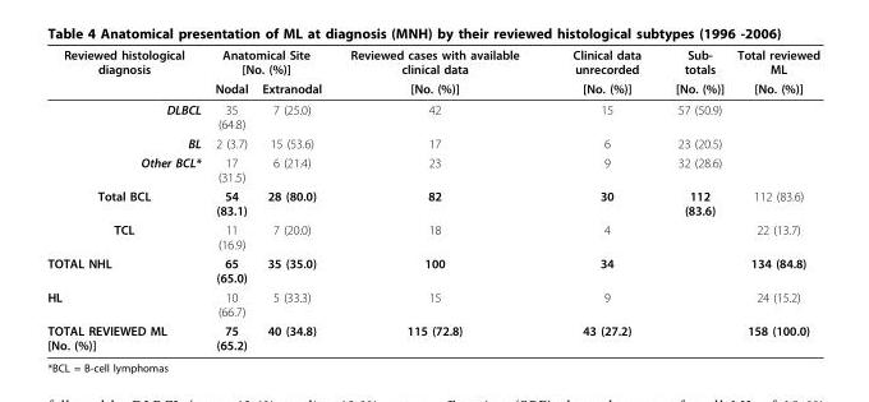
<table><thead><tr><td rowspan="2">Reviewed histological diagnosis</td><td colspan="2">Anatomical Site [No. (%)]</td><td rowspan="2">Reviewed cases with available clinical data [No. (%)]</td><td rowspan="2">Clinical data unrecorded [No. (%)]</td><td rowspan="2">Sub- totals [No. (%)]</td><td rowspan="2">Total reviewed ML [No. (%)]</td></tr><tr><td>Nodal</td><td>Extranodal</td></tr></thead><tbody><tr><td>DLBCL</td><td>35 (64.8)</td><td>7 (25.0)</td><td>42</td><td>15</td><td>57 (50.9)</td><td></td></tr><tr><td>BL</td><td>2 (3.7)</td><td>15 (53.6)</td><td>17</td><td>6</td><td>23 (20.5)</td><td></td></tr><tr><td>Other BCL*</td><td>17 (31.5)</td><td>6 (21.4)</td><td>23</td><td>9</td><td>32 (28.6)</td><td></td></tr><tr><td>Total BCL</td><td>54 (83.1)</td><td>28 (80.0)</td><td>82</td><td>30</td><td>112 (83.6)</td><td>112 (83.6)</td></tr><tr><td>TCL</td><td>11 (16.9)</td><td>7 (20.0)</td><td>18</td><td>4</td><td></td><td>22 (13.7)</td></tr><tr><td>TOTAL NHL</td><td>65 (65.0)</td><td>35 (35.0)</td><td>100</td><td>34</td><td></td><td>134 (84.8)</td></tr><tr><td>HL</td><td>10 (66.7)</td><td>5 (33.3)</td><td>15</td><td>9</td><td></td><td>24 (15.2)</td></tr><tr><td>TOTAL REVIEWED ML [No. (%)]</td><td>75 (65.2)</td><td>40 (34.8)</td><td>115 (72.8)</td><td>43 (27.2)</td><td></td><td>158 (100.0)</td></tr></tbody></table>